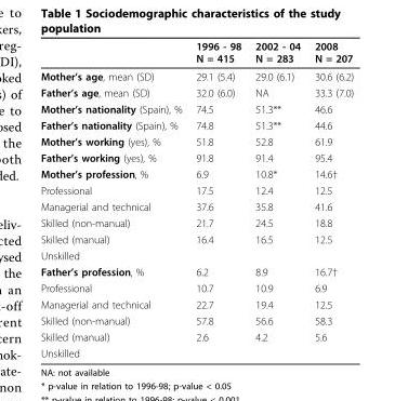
<table><thead><tr><td></td><td>1996 - 98 N = 415</td><td>2002 - 04 N = 283</td><td>2008 N = 207</td></tr></thead><tbody><tr><td>Mother’s age, mean (SD)</td><td>29.1 (5.4)</td><td>29.0 (6.1)</td><td>30.6 (6.2)</td></tr><tr><td>Father’s age, mean (SD)</td><td>32.0 (6.0)</td><td>NA</td><td>33.3 (7.0)</td></tr><tr><td>Mother’s nationality (Spain), %</td><td>74.5</td><td>51.3**</td><td>46.6</td></tr><tr><td>Father’s nationality (Spain), %</td><td>74.8</td><td>51.3**</td><td>44.6</td></tr><tr><td>Mother’s working (yes), %</td><td>51.8</td><td>52.8</td><td>61.9</td></tr><tr><td>Father’s working (yes), %</td><td>91.8</td><td>91.4</td><td>95.4</td></tr><tr><td>Mother’s profession, %</td><td>6.9</td><td>10.8*</td><td>14.6†</td></tr><tr><td>Professional</td><td>17.5</td><td>12.4</td><td>12.5</td></tr><tr><td>Managerial and technical</td><td>37.6</td><td>35.8</td><td>41.6</td></tr><tr><td>Skilled (non-manual)</td><td>21.7</td><td>24.5</td><td>18.8</td></tr><tr><td>Skilled (manual)</td><td>16.4</td><td>16.5</td><td>12.5</td></tr><tr><td colspan="4">Unskilled</td></tr><tr><td>Father’s profession, %</td><td>6.2</td><td>8.9</td><td>16.7†</td></tr><tr><td>Professional</td><td>10.7</td><td>10.9</td><td>6.9</td></tr><tr><td>Managerial and technical</td><td>22.7</td><td>19.4</td><td>12.5</td></tr><tr><td>Skilled (non-manual)</td><td>57.8</td><td>56.6</td><td>58.3</td></tr><tr><td>Skilled (manual)</td><td>2.6</td><td>4.2</td><td>5.6</td></tr><tr><td>Unskilled</td><td></td><td></td><td></td></tr></tbody></table>